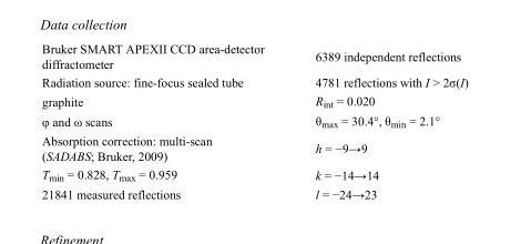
<table><tbody><tr><td>Bruker SMART APEXII CCD area-detector diffractometer</td><td>6389 independent reflections</td></tr><tr><td>Radiation source: fine-focus sealed tube</td><td>4781 reflections with I &gt; 2σ(I)</td></tr><tr><td>graphite</td><td>R<sub>int</sub> = 0.020</td></tr><tr><td>φ and ω scans</td><td>θ<sub>max</sub> = 30.4°, θ<sub>min</sub> = 2.1°</td></tr><tr><td>Absorption correction: multi-scan (SADABS; Bruker, 2009)</td><td>h = −9→9</td></tr><tr><td>T<sub>min</sub> = 0.828, T<sub>max</sub> = 0.959</td><td>k = −14→14</td></tr><tr><td>21841 measured reflections</td><td>l = −24→23</td></tr></tbody></table>